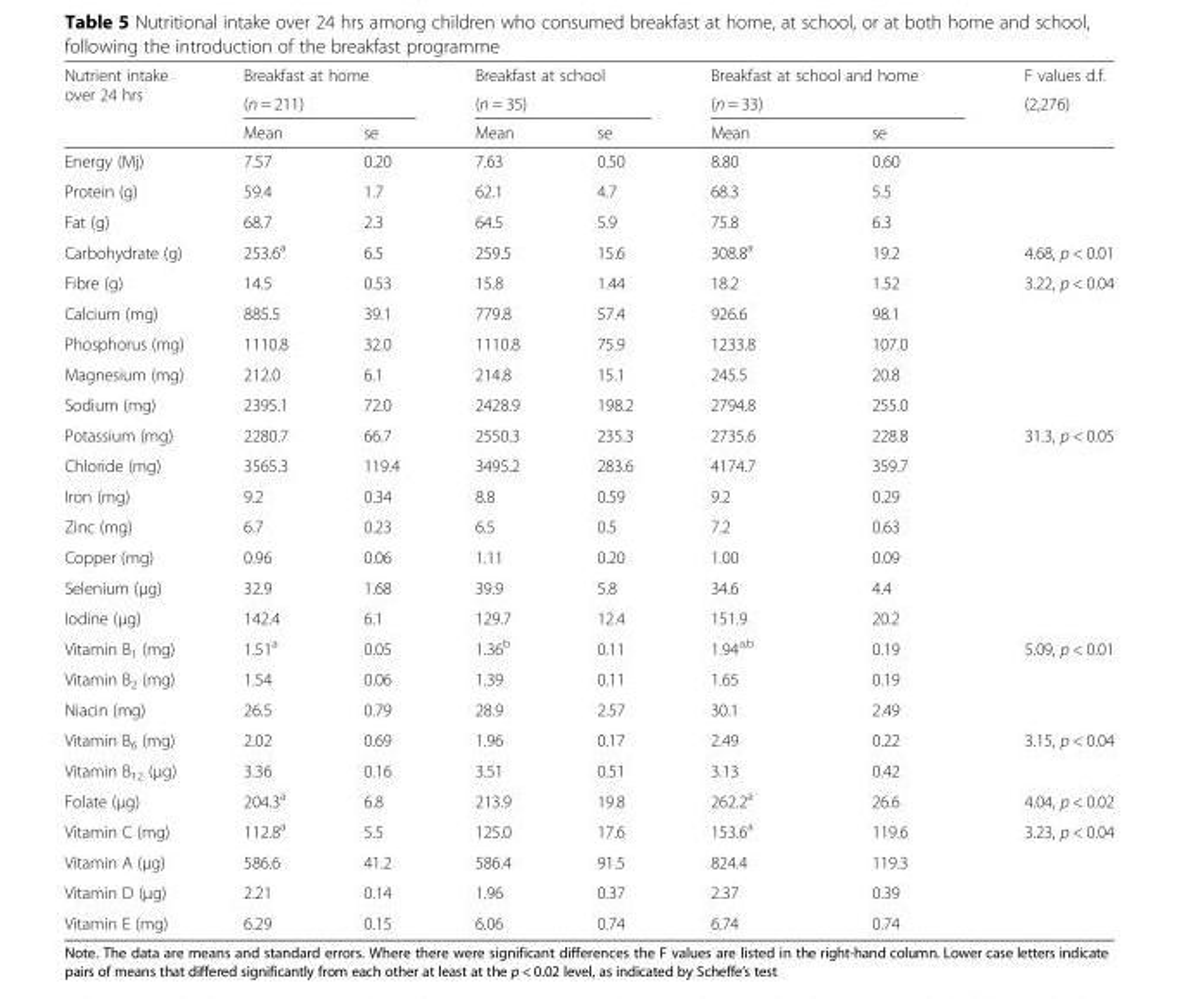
<table><thead><tr><td rowspan="3">Nutrient intake over 24 hrs</td><td rowspan="2" colspan="2">Breakfast at home (n = 211)</td><td rowspan="2" colspan="2">Breakfast at school (n = 35)</td><td rowspan="2" colspan="2">Breakfast at school and home (n = 33)</td><td rowspan="3">F values d.f. (2,276)</td></tr><tr></tr><tr><td>Mean</td><td>se</td><td>Mean</td><td>se</td><td>Mean</td><td>se</td></tr></thead><tbody><tr><td>Energy (Mj)</td><td>7.57</td><td>0.20</td><td>7.63</td><td>0.50</td><td>8.80</td><td>0.60</td><td></td></tr><tr><td>Protein (g)</td><td>59.4</td><td>1.7</td><td>62.1</td><td>4.7</td><td>68.3</td><td>5.5</td><td></td></tr><tr><td>Fat (g)</td><td>68.7</td><td>2.3</td><td>64.5</td><td>5.9</td><td>75.8</td><td>6.3</td><td></td></tr><tr><td>Carbohydrate (g)</td><td>253.6<sup>a</sup></td><td>6.5</td><td>259.5</td><td>15.6</td><td>308.8<sup>a</sup></td><td>19.2</td><td>4.68, p &lt; 0.01</td></tr><tr><td>Fibre (g)</td><td>14.5</td><td>0.53</td><td>15.8</td><td>1.44</td><td>18.2</td><td>1.52</td><td>3.22, p &lt; 0.04</td></tr><tr><td>Calcium (mg)</td><td>885.5</td><td>39.1</td><td>779.8</td><td>57.4</td><td>926.6</td><td>98.1</td><td></td></tr><tr><td>Phosphorus (mg)</td><td>1110.8</td><td>32.0</td><td>1110.8</td><td>75.9</td><td>1233.8</td><td>107.0</td><td></td></tr><tr><td>Magnesium (mg)</td><td>212.0</td><td>6.1</td><td>214.8</td><td>15.1</td><td>245.5</td><td>20.8</td><td></td></tr><tr><td>Sodium (mg)</td><td>2395.1</td><td>72.0</td><td>2428.9</td><td>198.2</td><td>2794.8</td><td>255.0</td><td></td></tr><tr><td>Potassium (mg)</td><td>2280.7</td><td>66.7</td><td>2550.3</td><td>235.3</td><td>2735.6</td><td>228.8</td><td>31.3, p &lt; 0.05</td></tr><tr><td>Chloride (mg)</td><td>3565.3</td><td>119.4</td><td>3495.2</td><td>283.6</td><td>4174.7</td><td>359.7</td><td></td></tr><tr><td>Iron (mg)</td><td>9.2</td><td>0.34</td><td>8.8</td><td>0.59</td><td>9.2</td><td>0.29</td><td></td></tr><tr><td>Zinc (mg)</td><td>6.7</td><td>0.23</td><td>6.5</td><td>0.5</td><td>7.2</td><td>0.63</td><td></td></tr><tr><td>Copper (mg)</td><td>0.96</td><td>0.06</td><td>1.11</td><td>0.20</td><td>1.00</td><td>0.09</td><td></td></tr><tr><td>Selenium (μg)</td><td>32.9</td><td>1.68</td><td>39.9</td><td>5.8</td><td>34.6</td><td>4.4</td><td></td></tr><tr><td>Iodine (μg)</td><td>142.4</td><td>6.1</td><td>129.7</td><td>12.4</td><td>151.9</td><td>20.2</td><td></td></tr><tr><td>Vitamin B<sub>1</sub> (mg)</td><td>1.51<sup>a</sup></td><td>0.05</td><td>1.36<sup>b</sup></td><td>0.11</td><td>1.94<sup>a,b</sup></td><td>0.19</td><td>5.09, p &lt; 0.01</td></tr><tr><td>Vitamin B<sub>2</sub> (mg)</td><td>1.54</td><td>0.06</td><td>1.39</td><td>0.11</td><td>1.65</td><td>0.19</td><td></td></tr><tr><td>Niacin (mg)</td><td>26.5</td><td>0.79</td><td>28.9</td><td>2.57</td><td>30.1</td><td>2.49</td><td></td></tr><tr><td>Vitamin B<sub>6</sub> (mg)</td><td>2.02</td><td>0.69</td><td>1.96</td><td>0.17</td><td>2.49</td><td>0.22</td><td>3.15, p &lt; 0.04</td></tr><tr><td>Vitamin B<sub>12</sub> (μg)</td><td>3.36</td><td>0.16</td><td>3.51</td><td>0.51</td><td>3.13</td><td>0.42</td><td></td></tr><tr><td>Folate (μg)</td><td>204.3<sup>a</sup></td><td>6.8</td><td>213.9</td><td>19.8</td><td>262.2<sup>a</sup></td><td>26.6</td><td>4.04, p &lt; 0.02</td></tr><tr><td>Vitamin C (mg)</td><td>112.8<sup>a</sup></td><td>5.5</td><td>125.0</td><td>17.6</td><td>153.6<sup>a</sup></td><td>119.6</td><td>3.23, p &lt; 0.04</td></tr><tr><td>Vitamin A (μg)</td><td>586.6</td><td>41.2</td><td>586.4</td><td>91.5</td><td>824.4</td><td>119.3</td><td></td></tr><tr><td>Vitamin D (μg)</td><td>2.21</td><td>0.14</td><td>1.96</td><td>0.37</td><td>2.37</td><td>0.39</td><td></td></tr><tr><td>Vitamin E (mg)</td><td>6.29</td><td>0.15</td><td>6.06</td><td>0.74</td><td>6.74</td><td>0.74</td><td></td></tr></tbody></table>